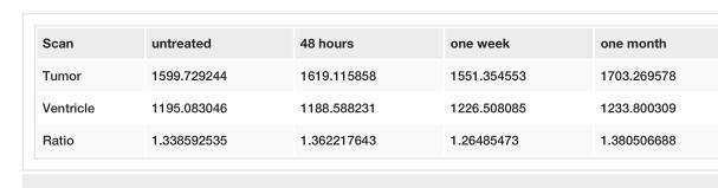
<table><tbody><tr><td>Scan</td><td>untreated</td><td>48 hours</td><td>one week</td><td>one month</td></tr><tr><td>Tumor</td><td>1599.729244</td><td>1619.115858</td><td>1551.354553</td><td>1703.269578</td></tr><tr><td>Ventricle</td><td>1195.083046</td><td>1188.588231</td><td>1226.508085</td><td>1233.800309</td></tr><tr><td>Ratio</td><td>1.338592535</td><td>1.362217643</td><td>1.26485473</td><td>1.380506688</td></tr></tbody></table>